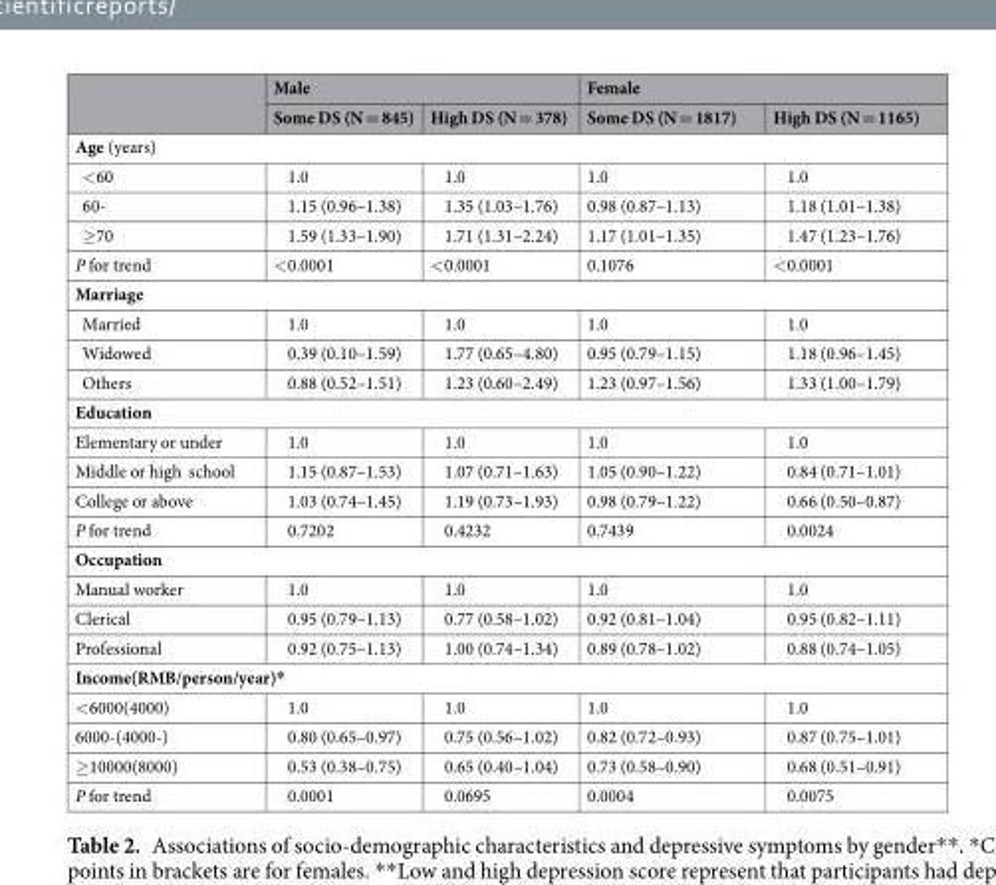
<table><thead><tr><td rowspan="2"></td><td colspan="2">Male</td><td colspan="2">Female</td></tr><tr><td>Some DS (N = 845)</td><td>High DS (N = 378)</td><td>Some DS (N = 1817)</td><td>High DS (N = 1165)</td></tr></thead><tbody><tr><td colspan="5">Age (years)</td></tr><tr><td>&lt;60</td><td>1.0</td><td>1.0</td><td>1.0</td><td>1.0</td></tr><tr><td>60-</td><td>1.15 (0.96–1.38)</td><td>1.35 (1.03–1.76)</td><td>0.98 (0.87–1.13)</td><td>1.18 (1.01–1.38)</td></tr><tr><td>≥70</td><td>1.59 (1.33–1.90)</td><td>1.71 (1.31–2.24)</td><td>1.17 (1.01–1.35)</td><td>1.47 (1.23–1.76)</td></tr><tr><td>P for trend</td><td>&lt;0.0001</td><td>&lt;0.0001</td><td>0.1076</td><td>&lt;0.0001</td></tr><tr><td colspan="5">Marriage</td></tr><tr><td>Married</td><td>1.0</td><td>1.0</td><td>1.0</td><td>1.0</td></tr><tr><td>Widowed</td><td>0.39 (0.10–1.59)</td><td>1.77 (0.65–4.80)</td><td>0.95 (0.79–1.15)</td><td>1.18 (0.96–1.45)</td></tr><tr><td>Others</td><td>0.88 (0.52–1.51)</td><td>1.23 (0.60–2.49)</td><td>1.23 (0.97–1.56)</td><td>1.33 (1.00–1.79)</td></tr><tr><td colspan="5">Education</td></tr><tr><td>Elementary or under</td><td>1.0</td><td>1.0</td><td>1.0</td><td>1.0</td></tr><tr><td>Middle or high school</td><td>1.15 (0.87–1.53)</td><td>1.07 (0.71–1.63)</td><td>1.05 (0.90–1.22)</td><td>0.84 (0.71–1.01)</td></tr><tr><td>College or above</td><td>1.03 (0.74–1.45)</td><td>1.19 (0.73–1.93)</td><td>0.98 (0.79–1.22)</td><td>0.66 (0.50–0.87)</td></tr><tr><td>P for trend</td><td>0.7202</td><td>0.4232</td><td>0.7439</td><td>0.0024</td></tr><tr><td colspan="5">Occupation</td></tr><tr><td>Manual worker</td><td>1.0</td><td>1.0</td><td>1.0</td><td>1.0</td></tr><tr><td>Clerical</td><td>0.95 (0.79–1.13)</td><td>0.77 (0.58–1.02)</td><td>0.92 (0.81–1.04)</td><td>0.95 (0.82–1.11)</td></tr><tr><td>Professional</td><td>0.92 (0.75–1.13)</td><td>1.00 (0.74–1.34)</td><td>0.89 (0.78–1.02)</td><td>0.88 (0.74–1.05)</td></tr><tr><td colspan="5">Income(RMB/person/year)*</td></tr><tr><td>&lt;6000(4000)</td><td>1.0</td><td>1.0</td><td>1.0</td><td>1.0</td></tr><tr><td>6000-(4000-)</td><td>0.80 (0.65–0.97)</td><td>0.75 (0.56–1.02)</td><td>0.82 (0.72–0.93)</td><td>0.87 (0.75–1.01)</td></tr><tr><td>≥10000(8000)</td><td>0.53 (0.38–0.75)</td><td>0.65 (0.40–1.04)</td><td>0.73 (0.58–0.90)</td><td>0.68 (0.51–0.91)</td></tr><tr><td>P for trend</td><td>0.0001</td><td>0.0695</td><td>0.0004</td><td>0.0075</td></tr></tbody></table>